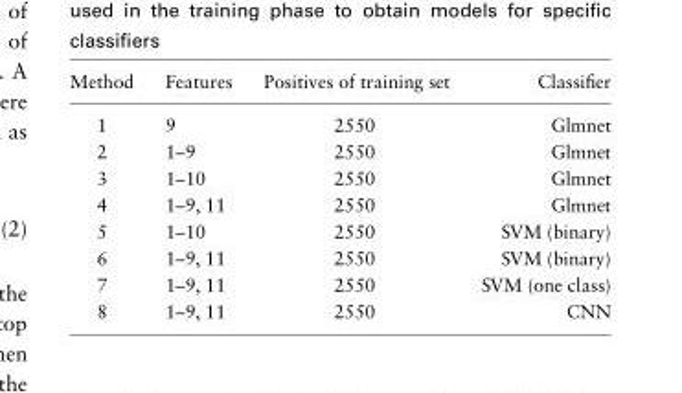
<table><thead><tr><td>Method</td><td>Features</td><td>Positives of training set</td><td>Classifier</td></tr></thead><tbody><tr><td>1</td><td>9</td><td>2550</td><td>Glmnet</td></tr><tr><td>2</td><td>1–9</td><td>2550</td><td>Glmnet</td></tr><tr><td>3</td><td>1–10</td><td>2550</td><td>Glmnet</td></tr><tr><td>4</td><td>1–9, 11</td><td>2550</td><td>Glmnet</td></tr><tr><td>5</td><td>1–10</td><td>2550</td><td>SVM (binary)</td></tr><tr><td>6</td><td>1–9, 11</td><td>2550</td><td>SVM (binary)</td></tr><tr><td>7</td><td>1–9, 11</td><td>2550</td><td>SVM (one class)</td></tr><tr><td>8</td><td>1–9, 11</td><td>2550</td><td>CNN</td></tr></tbody></table>